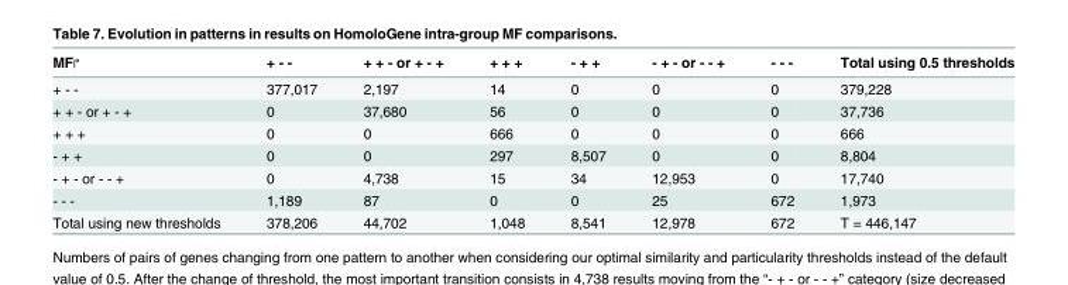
<table><thead><tr><td>MF↱</td><td>+ - -</td><td>+ + - or + - +</td><td>+ + +</td><td>- + +</td><td>- + - or - - +</td><td>- - -</td><td>Total using 0.5 thresholds</td></tr></thead><tbody><tr><td>+ - -</td><td>377,017</td><td>2,197</td><td>14</td><td>0</td><td>0</td><td>0</td><td>379,228</td></tr><tr><td>+ + - or + - +</td><td>0</td><td>37,680</td><td>56</td><td>0</td><td>0</td><td>0</td><td>37,736</td></tr><tr><td>+ + +</td><td>0</td><td>0</td><td>666</td><td>0</td><td>0</td><td>0</td><td>666</td></tr><tr><td>- + +</td><td>0</td><td>0</td><td>297</td><td>8,507</td><td>0</td><td>0</td><td>8,804</td></tr><tr><td>- + - or - - +</td><td>0</td><td>4,738</td><td>15</td><td>34</td><td>12,953</td><td>0</td><td>17,740</td></tr><tr><td>- - -</td><td>1,189</td><td>87</td><td>0</td><td>0</td><td>25</td><td>672</td><td>1,973</td></tr><tr><td>Total using new thresholds</td><td>378,206</td><td>44,702</td><td>1,048</td><td>8,541</td><td>12,978</td><td>672</td><td>T = 446,147</td></tr></tbody></table>